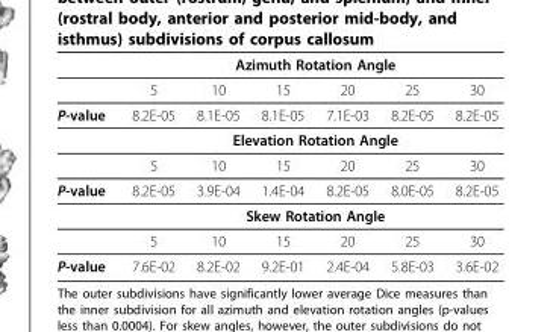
<table><thead><tr><td rowspan="2"></td><td colspan="6">Azimuth Rotation Angle</td></tr><tr><td>5</td><td>10</td><td>15</td><td>20</td><td>25</td><td>30</td></tr></thead><tbody><tr><td rowspan="3">P-value</td><td>8.2E-05</td><td>8.1E-05</td><td>8.1E-05</td><td>7.1E-03</td><td>8.2E-05</td><td>8.2E-05</td></tr><tr><td colspan="6">Elevation Rotation Angle</td></tr><tr><td>5</td><td>10</td><td>15</td><td>20</td><td>25</td><td>30</td></tr><tr><td rowspan="3">P-value</td><td>8.2E-05</td><td>3.9E-04</td><td>1.4E-04</td><td>8.2E-05</td><td>8.0E-05</td><td>8.2E-05</td></tr><tr><td colspan="6">Skew Rotation Angle</td></tr><tr><td>5</td><td>10</td><td>15</td><td>20</td><td>25</td><td>30</td></tr><tr><td>P-value</td><td>7.6E-02</td><td>8.2E-02</td><td>9.2E-01</td><td>2.4E-04</td><td>5.8E-03</td><td>3.6E-02</td></tr></tbody></table>